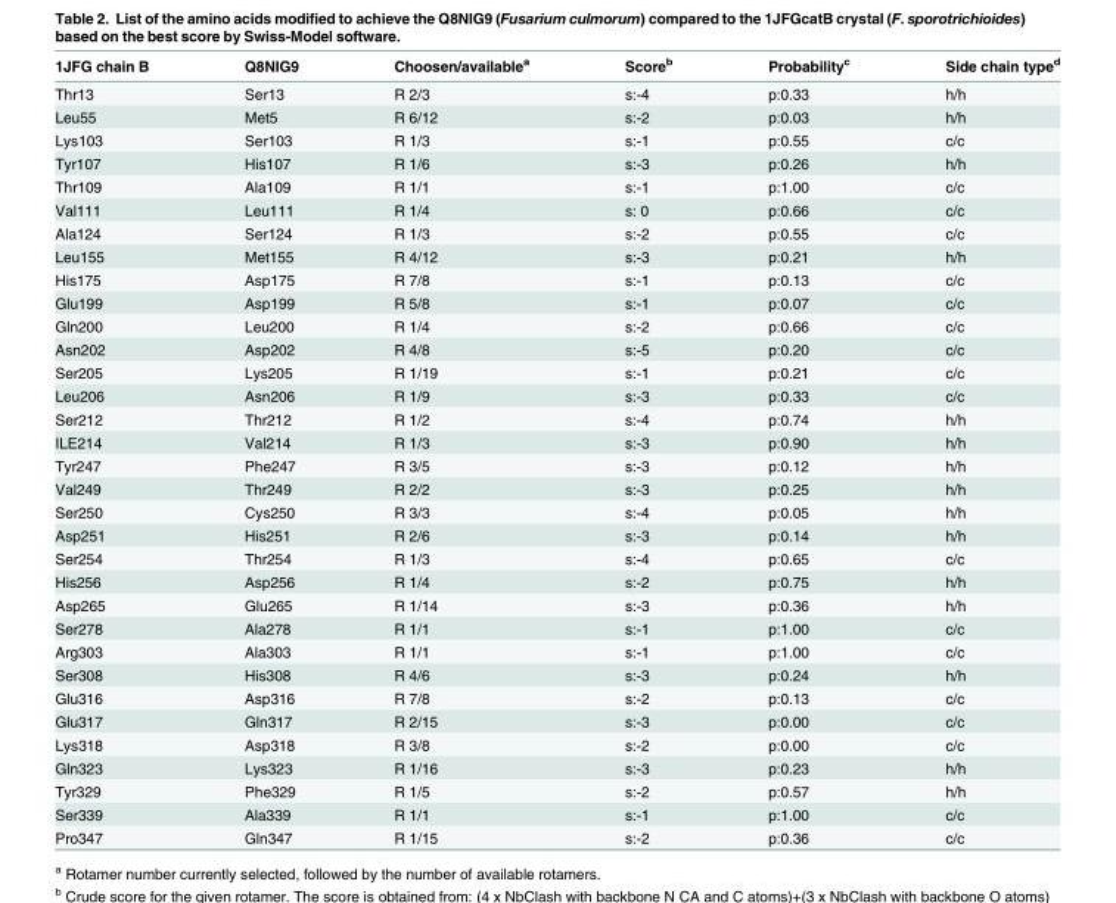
<table><thead><tr><td>1JFG chain B</td><td>Q8NIG9</td><td>Choosen/available<sup>a</sup></td><td>Score<sup>b</sup></td><td>Probability<sup>c</sup></td><td>Side chain type<sup>d</sup></td></tr></thead><tbody><tr><td>Thr13</td><td>Ser13</td><td>R 2/3</td><td>s:-4</td><td>p:0.33</td><td>h/h</td></tr><tr><td>Leu55</td><td>Met5</td><td>R 6/12</td><td>s:-2</td><td>p:0.03</td><td>h/h</td></tr><tr><td>Lys103</td><td>Ser103</td><td>R 1/3</td><td>s:-1</td><td>p:0.55</td><td>c/c</td></tr><tr><td>Tyr107</td><td>His107</td><td>R 1/6</td><td>s:-3</td><td>p:0.26</td><td>h/h</td></tr><tr><td>Thr109</td><td>Ala109</td><td>R 1/1</td><td>s:-1</td><td>p:1.00</td><td>c/c</td></tr><tr><td>Val111</td><td>Leu111</td><td>R 1/4</td><td>s: 0</td><td>p:0.66</td><td>c/c</td></tr><tr><td>Ala124</td><td>Ser124</td><td>R 1/3</td><td>s:-2</td><td>p:0.55</td><td>c/c</td></tr><tr><td>Leu155</td><td>Met155</td><td>R 4/12</td><td>s:-3</td><td>p:0.21</td><td>h/h</td></tr><tr><td>His175</td><td>Asp175</td><td>R 7/8</td><td>s:-1</td><td>p:0.13</td><td>c/c</td></tr><tr><td>Glu199</td><td>Asp199</td><td>R 5/8</td><td>s:-1</td><td>p:0.07</td><td>c/c</td></tr><tr><td>Gln200</td><td>Leu200</td><td>R 1/4</td><td>s:-2</td><td>p:0.66</td><td>c/c</td></tr><tr><td>Asn202</td><td>Asp202</td><td>R 4/8</td><td>s:-5</td><td>p:0.20</td><td>c/c</td></tr><tr><td>Ser205</td><td>Lys205</td><td>R 1/19</td><td>s:-1</td><td>p:0.21</td><td>c/c</td></tr><tr><td>Leu206</td><td>Asn206</td><td>R 1/9</td><td>s:-3</td><td>p:0.33</td><td>c/c</td></tr><tr><td>Ser212</td><td>Thr212</td><td>R 1/2</td><td>s:-4</td><td>p:0.74</td><td>h/h</td></tr><tr><td>ILE214</td><td>Val214</td><td>R 1/3</td><td>s:-3</td><td>p:0.90</td><td>h/h</td></tr><tr><td>Tyr247</td><td>Phe247</td><td>R 3/5</td><td>s:-3</td><td>p:0.12</td><td>h/h</td></tr><tr><td>Val249</td><td>Thr249</td><td>R 2/2</td><td>s:-3</td><td>p:0.25</td><td>h/h</td></tr><tr><td>Ser250</td><td>Cys250</td><td>R 3/3</td><td>s:-4</td><td>p:0.05</td><td>h/h</td></tr><tr><td>Asp251</td><td>His251</td><td>R 2/6</td><td>s:-3</td><td>p:0.14</td><td>h/h</td></tr><tr><td>Ser254</td><td>Thr254</td><td>R 1/3</td><td>s:-4</td><td>p:0.65</td><td>c/c</td></tr><tr><td>His256</td><td>Asp256</td><td>R 1/4</td><td>s:-2</td><td>p:0.75</td><td>h/h</td></tr><tr><td>Asp265</td><td>Glu265</td><td>R 1/14</td><td>s:-3</td><td>p:0.36</td><td>h/h</td></tr><tr><td>Ser278</td><td>Ala278</td><td>R 1/1</td><td>s:-1</td><td>p:1.00</td><td>c/c</td></tr><tr><td>Arg303</td><td>Ala303</td><td>R 1/1</td><td>s:-1</td><td>p:1.00</td><td>c/c</td></tr><tr><td>Ser308</td><td>His308</td><td>R 4/6</td><td>s:-3</td><td>p:0.24</td><td>h/h</td></tr><tr><td>Glu316</td><td>Asp316</td><td>R 7/8</td><td>s:-2</td><td>p:0.13</td><td>c/c</td></tr><tr><td>Glu317</td><td>Gln317</td><td>R 2/15</td><td>s:-3</td><td>p:0.00</td><td>c/c</td></tr><tr><td>Lys318</td><td>Asp318</td><td>R 3/8</td><td>s:-2</td><td>p:0.00</td><td>c/c</td></tr><tr><td>Gln323</td><td>Lys323</td><td>R 1/16</td><td>s:-3</td><td>p:0.23</td><td>h/h</td></tr><tr><td>Tyr329</td><td>Phe329</td><td>R 1/5</td><td>s:-2</td><td>p:0.57</td><td>h/h</td></tr><tr><td>Ser339</td><td>Ala339</td><td>R 1/1</td><td>s:-1</td><td>p:1.00</td><td>c/c</td></tr><tr><td>Pro347</td><td>Gln347</td><td>R 1/15</td><td>s:-2</td><td>p:0.36</td><td>c/c</td></tr></tbody></table>